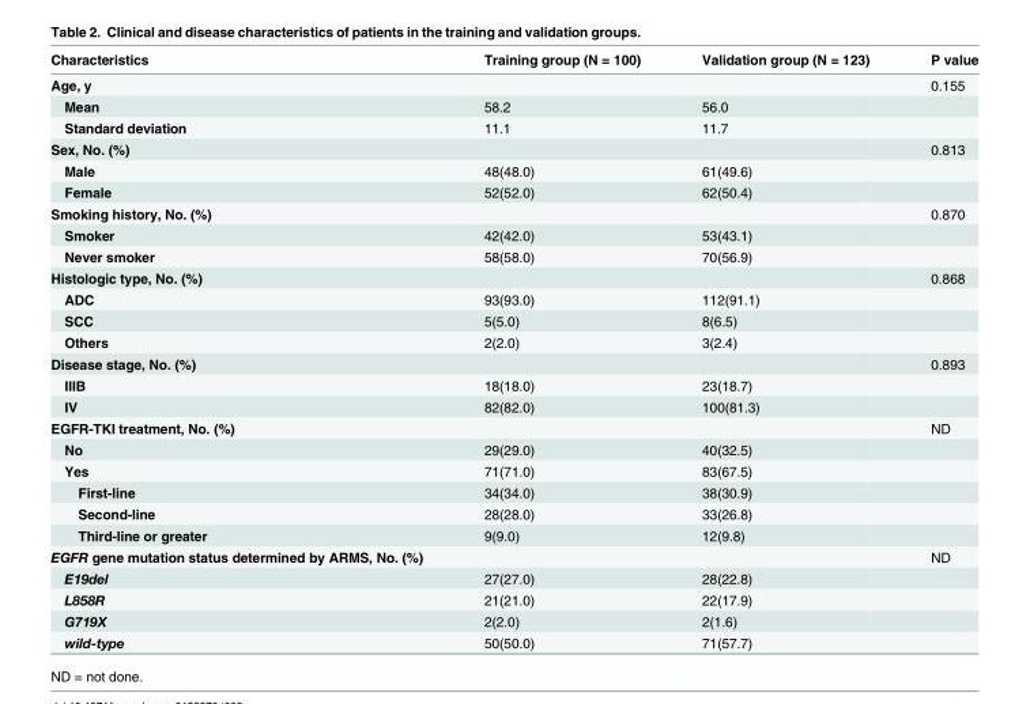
<table><thead><tr><td>Characteristics</td><td>Training group (N = 100)</td><td>Validation group (N = 123)</td><td>P value</td></tr></thead><tbody><tr><td>Age, y</td><td></td><td></td><td>0.155</td></tr><tr><td>Mean</td><td>58.2</td><td>56.0</td><td></td></tr><tr><td>Standard deviation</td><td>11.1</td><td>11.7</td><td></td></tr><tr><td>Sex, No. (%)</td><td></td><td></td><td>0.813</td></tr><tr><td>Male</td><td>48(48.0)</td><td>61(49.6)</td><td></td></tr><tr><td>Female</td><td>52(52.0)</td><td>62(50.4)</td><td></td></tr><tr><td>Smoking history, No. (%)</td><td></td><td></td><td>0.870</td></tr><tr><td>Smoker</td><td>42(42.0)</td><td>53(43.1)</td><td></td></tr><tr><td>Never smoker</td><td>58(58.0)</td><td>70(56.9)</td><td></td></tr><tr><td>Histologic type, No. (%)</td><td></td><td></td><td>0.868</td></tr><tr><td>ADC</td><td>93(93.0)</td><td>112(91.1)</td><td></td></tr><tr><td>SCC</td><td>5(5.0)</td><td>8(6.5)</td><td></td></tr><tr><td>Others</td><td>2(2.0)</td><td>3(2.4)</td><td></td></tr><tr><td>Disease stage, No. (%)</td><td></td><td></td><td>0.893</td></tr><tr><td>IIIB</td><td>18(18.0)</td><td>23(18.7)</td><td></td></tr><tr><td>IV</td><td>82(82.0)</td><td>100(81.3)</td><td></td></tr><tr><td>EGFR-TKI treatment, No. (%)</td><td></td><td></td><td>ND</td></tr><tr><td>No</td><td>29(29.0)</td><td>40(32.5)</td><td></td></tr><tr><td>Yes</td><td>71(71.0)</td><td>83(67.5)</td><td></td></tr><tr><td>First-line</td><td>34(34.0)</td><td>38(30.9)</td><td></td></tr><tr><td>Second-line</td><td>28(28.0)</td><td>33(26.8)</td><td></td></tr><tr><td>Third-line or greater</td><td>9(9.0)</td><td>12(9.8)</td><td></td></tr><tr><td>EGFR gene mutation status determined by ARMS, No. (%)</td><td></td><td></td><td>ND</td></tr><tr><td>E19del</td><td>27(27.0)</td><td>28(22.8)</td><td></td></tr><tr><td>L858R</td><td>21(21.0)</td><td>22(17.9)</td><td></td></tr><tr><td>G719X</td><td>2(2.0)</td><td>2(1.6)</td><td></td></tr><tr><td>wild-type</td><td>50(50.0)</td><td>71(57.7)</td><td></td></tr></tbody></table>